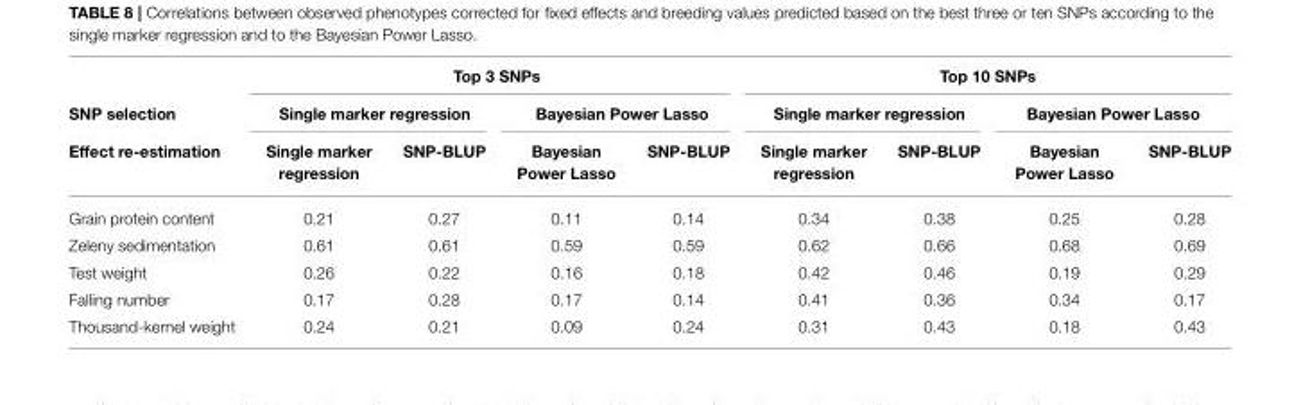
<table><thead><tr><td rowspan="3">SNP selection Effect re-estimation</td><td colspan="4">Top 3 SNPs</td><td colspan="4">Top 10 SNPs</td></tr><tr><td colspan="2">Single marker regression</td><td colspan="2">Bayesian Power Lasso</td><td colspan="2">Single marker regression</td><td colspan="2">Bayesian Power Lasso</td></tr><tr><td>Single marker regression</td><td>SNP-BLUP</td><td>Bayesian Power Lasso</td><td>SNP-BLUP</td><td>Single marker regression</td><td>SNP-BLUP</td><td>Bayesian Power Lasso</td><td>SNP-BLUP</td></tr></thead><tbody><tr><td>Grain protein content</td><td>0.21</td><td>0.27</td><td>0.11</td><td>0.14</td><td>0.34</td><td>0.38</td><td>0.25</td><td>0.28</td></tr><tr><td>Zeleny sedimentation</td><td>0.61</td><td>0.61</td><td>0.59</td><td>0.59</td><td>0.62</td><td>0.66</td><td>0.68</td><td>0.69</td></tr><tr><td>Test weight</td><td>0.26</td><td>0.22</td><td>0.16</td><td>0.18</td><td>0.42</td><td>0.46</td><td>0.19</td><td>0.29</td></tr><tr><td>Falling number</td><td>0.17</td><td>0.28</td><td>0.17</td><td>0.14</td><td>0.41</td><td>0.36</td><td>0.34</td><td>0.17</td></tr><tr><td>Thousand-kernel weight</td><td>0.24</td><td>0.21</td><td>0.09</td><td>0.24</td><td>0.31</td><td>0.43</td><td>0.18</td><td>0.43</td></tr></tbody></table>